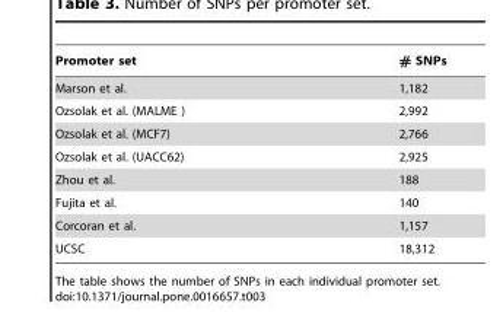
<table><thead><tr><td>Promoter set</td><td># SNPs</td></tr></thead><tbody><tr><td>Marson et al.</td><td>1,182</td></tr><tr><td>Ozsolak et al. (MALME )</td><td>2,992</td></tr><tr><td>Ozsolak et al. (MCF7)</td><td>2,766</td></tr><tr><td>Ozsolak et al. (UACC62)</td><td>2,925</td></tr><tr><td>Zhou et al.</td><td>188</td></tr><tr><td>Fujita et al.</td><td>140</td></tr><tr><td>Corcoran et al.</td><td>1,157</td></tr><tr><td>UCSC</td><td>18,312</td></tr></tbody></table>